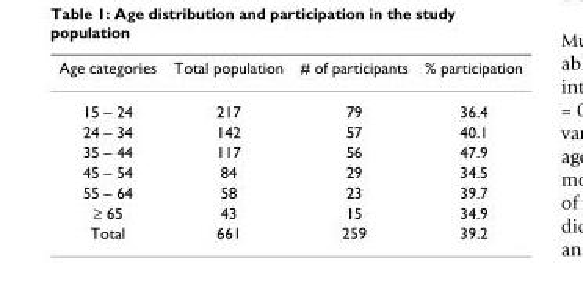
<table><thead><tr><td>Age categories</td><td>Total population</td><td># of participants</td><td>% participation</td></tr></thead><tbody><tr><td>15 – 24</td><td>217</td><td>79</td><td>36.4</td></tr><tr><td>24 – 34</td><td>142</td><td>57</td><td>40.1</td></tr><tr><td>35 – 44</td><td>117</td><td>56</td><td>47.9</td></tr><tr><td>45 – 54</td><td>84</td><td>29</td><td>34.5</td></tr><tr><td>55 – 64</td><td>58</td><td>23</td><td>39.7</td></tr><tr><td>≥ 65</td><td>43</td><td>15</td><td>34.9</td></tr><tr><td>Total</td><td>661</td><td>259</td><td>39.2</td></tr></tbody></table>